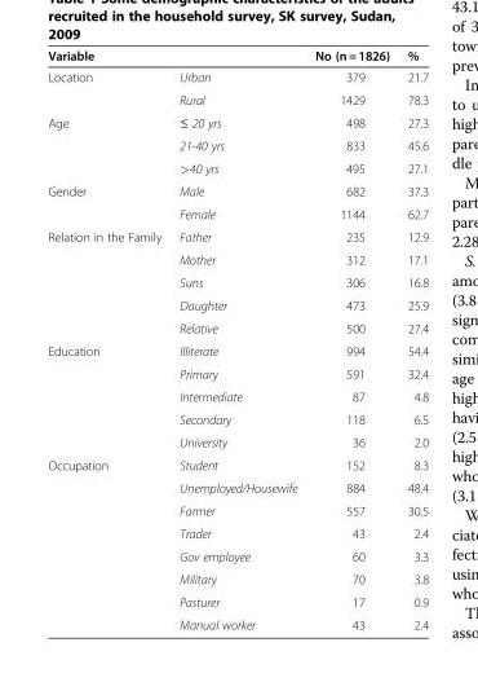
<table><thead><tr><td>Variable</td><td></td><td>No (n = 1826)</td><td>%</td></tr></thead><tbody><tr><td rowspan="2">Location</td><td>Urban</td><td>379</td><td>21.7</td></tr><tr><td>Rural</td><td>1429</td><td>78.3</td></tr><tr><td rowspan="3">Age</td><td>≤ 20 yrs</td><td>498</td><td>27.3</td></tr><tr><td>21-40 yrs</td><td>833</td><td>45.6</td></tr><tr><td>&gt;40 yrs</td><td>495</td><td>27.1</td></tr><tr><td rowspan="2">Gender</td><td>Male</td><td>682</td><td>37.3</td></tr><tr><td>Female</td><td>1144</td><td>62.7</td></tr><tr><td rowspan="5">Relation in the Family</td><td>Father</td><td>235</td><td>12.9</td></tr><tr><td>Mother</td><td>312</td><td>17.1</td></tr><tr><td>Suns</td><td>306</td><td>16.8</td></tr><tr><td>Daughter</td><td>473</td><td>25.9</td></tr><tr><td>Relative</td><td>500</td><td>27.4</td></tr><tr><td rowspan="5">Education</td><td>Illiterate</td><td>994</td><td>54.4</td></tr><tr><td>Primary</td><td>591</td><td>32.4</td></tr><tr><td>Intermediate</td><td>87</td><td>4.8</td></tr><tr><td>Secondary</td><td>118</td><td>6.5</td></tr><tr><td>University</td><td>36</td><td>2.0</td></tr><tr><td rowspan="8">Occupation</td><td>Student</td><td>152</td><td>8.3</td></tr><tr><td>Unemployed/Housewife</td><td>884</td><td>48.4</td></tr><tr><td>Farmer</td><td>557</td><td>30.5</td></tr><tr><td>Trader</td><td>43</td><td>2.4</td></tr><tr><td>Gov employee</td><td>60</td><td>3.3</td></tr><tr><td>Military</td><td>70</td><td>3.8</td></tr><tr><td>Pasturer</td><td>17</td><td>0.9</td></tr><tr><td>Manual worker</td><td>43</td><td>2.4</td></tr></tbody></table>